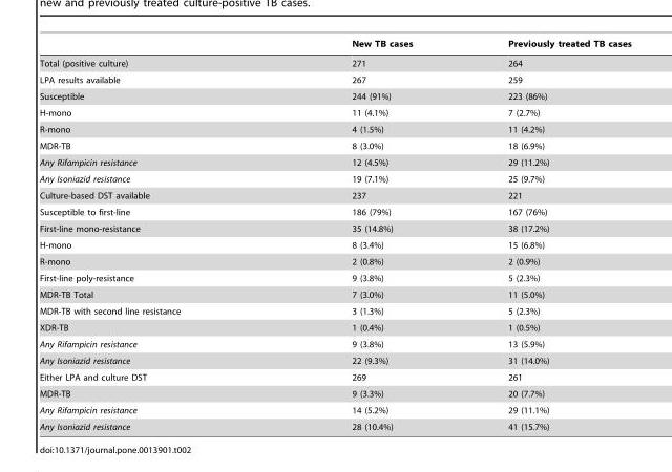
<table><thead><tr><td></td><td>New TB cases</td><td>Previously treated TB cases</td></tr></thead><tbody><tr><td>Total (positive culture)</td><td>271</td><td>264</td></tr><tr><td>LPA results available</td><td>267</td><td>259</td></tr><tr><td>Susceptible</td><td>244 (91%)</td><td>223 (86%)</td></tr><tr><td>H-mono</td><td>11 (4.1%)</td><td>7 (2.7%)</td></tr><tr><td>R-mono</td><td>4 (1.5%)</td><td>11 (4.2%)</td></tr><tr><td>MDR-TB</td><td>8 (3.0%)</td><td>18 (6.9%)</td></tr><tr><td>Any Rifampicin resistance</td><td>12 (4.5%)</td><td>29 (11.2%)</td></tr><tr><td>Any Isoniazid resistance</td><td>19 (7.1%)</td><td>25 (9.7%)</td></tr><tr><td>Culture-based DST available</td><td>237</td><td>221</td></tr><tr><td>Susceptible to first-line</td><td>186 (79%)</td><td>167 (76%)</td></tr><tr><td>First-line mono-resistance</td><td>35 (14.8%)</td><td>38 (17.2%)</td></tr><tr><td>H-mono</td><td>8 (3.4%)</td><td>15 (6.8%)</td></tr><tr><td>R-mono</td><td>2 (0.8%)</td><td>2 (0.9%)</td></tr><tr><td>First-line poly-resistance</td><td>9 (3.8%)</td><td>5 (2.3%)</td></tr><tr><td>MDR-TB Total</td><td>7 (3.0%)</td><td>11 (5.0%)</td></tr><tr><td>MDR-TB with second line resistance</td><td>3 (1.3%)</td><td>5 (2.3%)</td></tr><tr><td>XDR-TB</td><td>1 (0.4%)</td><td>1 (0.5%)</td></tr><tr><td>Any Rifampicin resistance</td><td>9 (3.8%)</td><td>13 (5.9%)</td></tr><tr><td>Any Isoniazid resistance</td><td>22 (9.3%)</td><td>31 (14.0%)</td></tr><tr><td>Either LPA and culture DST</td><td>269</td><td>261</td></tr><tr><td>MDR-TB</td><td>9 (3.3%)</td><td>20 (7.7%)</td></tr><tr><td>Any Rifampicin resistance</td><td>14 (5.2%)</td><td>29 (11.1%)</td></tr><tr><td>Any Isoniazid resistance</td><td>28 (10.4%)</td><td>41 (15.7%)</td></tr></tbody></table>